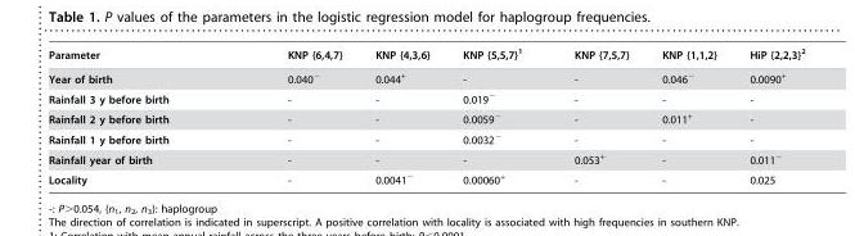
<table><thead><tr><td>Parameter</td><td>KNP {6,4,7}</td><td>KNP {4,3,6}</td><td>KNP {5,5,7}<sup>1</sup></td><td>KNP {7,5,7}</td><td>KNP {1,1,2}</td><td>HiP {2,2,3}<sup>2</sup></td></tr></thead><tbody><tr><td>Year of birth</td><td>0.040<sup>−</sup></td><td>0.044<sup>+</sup></td><td>-</td><td>-</td><td>0.046<sup>−</sup></td><td>0.0090<sup>+</sup></td></tr><tr><td>Rainfall 3 y before birth</td><td>-</td><td>-</td><td>0.019<sup>−</sup></td><td>-</td><td>-</td><td>-</td></tr><tr><td>Rainfall 2 y before birth</td><td>-</td><td>-</td><td>0.0059<sup>−</sup></td><td>-</td><td>0.011<sup>+</sup></td><td>-</td></tr><tr><td>Rainfall 1 y before birth</td><td>-</td><td>-</td><td>0.0032<sup>−</sup></td><td>-</td><td>-</td><td>-</td></tr><tr><td>Rainfall year of birth</td><td>-</td><td>-</td><td>-</td><td>0.053<sup>+</sup></td><td>-</td><td>0.011<sup>−</sup></td></tr><tr><td>Locality</td><td>-</td><td>0.0041<sup>−</sup></td><td>0.00060<sup>+</sup></td><td>-</td><td>-</td><td>0.025</td></tr></tbody></table>